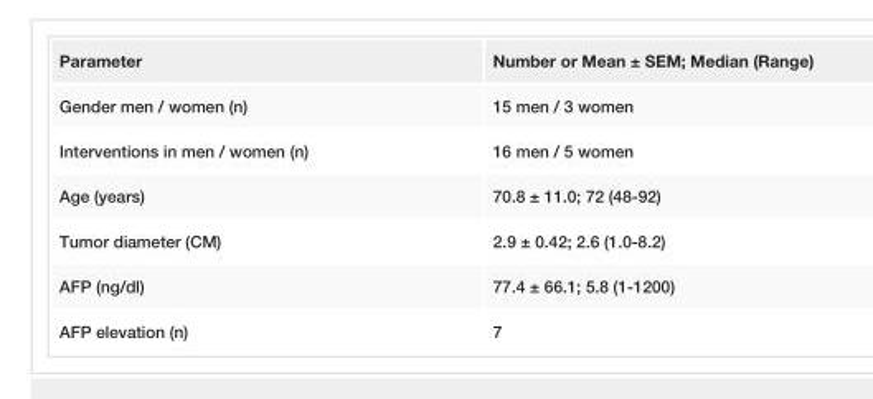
<table><tbody><tr><td>Parameter</td><td>Number or Mean ± SEM; Median (Range)</td></tr><tr><td>Gender men / women (n)</td><td>15 men / 3 women</td></tr><tr><td>Interventions in men / women (n)</td><td>16 men / 5 women</td></tr><tr><td>Age (years)</td><td>70.8 ± 11.0; 72 (48-92)</td></tr><tr><td>Tumor diameter (CM)</td><td>2.9 ± 0.42; 2.6 (1.0-8.2)</td></tr><tr><td>AFP (ng/dl)</td><td>77.4 ± 66.1; 5.8 (1-1200)</td></tr><tr><td>AFP elevation (n)</td><td>7</td></tr></tbody></table>